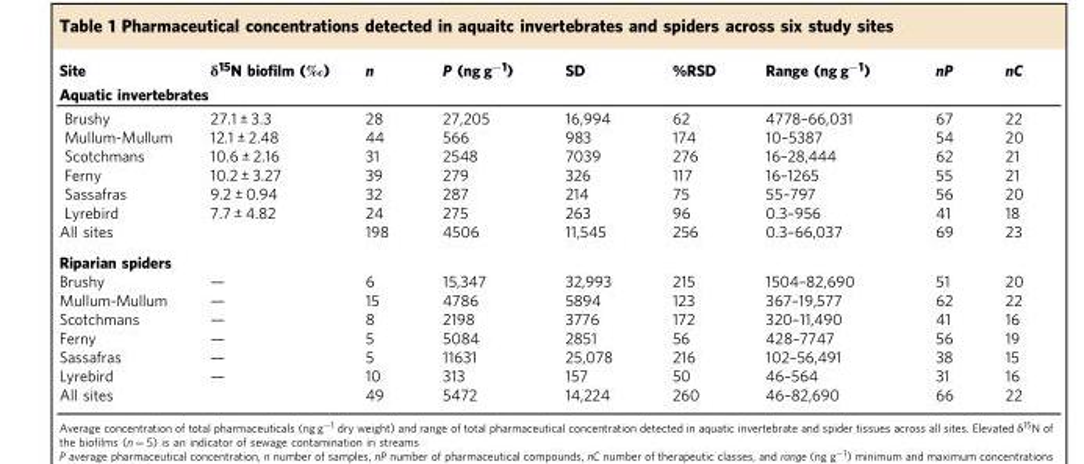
<table><thead><tr><td>Site</td><td>δ<sup>15</sup>N biofilm (‰)</td><td>n</td><td>P (ng g<sup>−1</sup>)</td><td>SD</td><td>%RSD</td><td>Range (ng g<sup>−1</sup>)</td><td>nP</td><td>nC</td></tr><tr><td colspan="9">Aquatic invertebrates</td></tr></thead><tbody><tr><td>Brushy</td><td>27.1 ± 3.3</td><td>28</td><td>27,205</td><td>16,994</td><td>62</td><td>4778–66,031</td><td>67</td><td>22</td></tr><tr><td>Mullum-Mullum</td><td>12.1 ± 2.48</td><td>44</td><td>566</td><td>983</td><td>174</td><td>10–5387</td><td>54</td><td>20</td></tr><tr><td>Scotchmans</td><td>10.6 ± 2.16</td><td>31</td><td>2548</td><td>7039</td><td>276</td><td>16–28,444</td><td>62</td><td>21</td></tr><tr><td>Ferny</td><td>10.2 ± 3.27</td><td>39</td><td>279</td><td>326</td><td>117</td><td>16–1265</td><td>55</td><td>21</td></tr><tr><td>Sassafras</td><td>9.2 ± 0.94</td><td>32</td><td>287</td><td>214</td><td>75</td><td>55–797</td><td>56</td><td>20</td></tr><tr><td>Lyrebird</td><td>7.7 ± 4.82</td><td>24</td><td>275</td><td>263</td><td>96</td><td>0.3–956</td><td>41</td><td>18</td></tr><tr><td>All sites</td><td></td><td>198</td><td>4506</td><td>11,545</td><td>256</td><td>0.3–66,037</td><td>69</td><td>23</td></tr><tr><td colspan="9">Riparian spiders</td></tr><tr><td>Brushy</td><td>—</td><td>6</td><td>15,347</td><td>32,993</td><td>215</td><td>1504–82,690</td><td>51</td><td>20</td></tr><tr><td>Mullum-Mullum</td><td>—</td><td>15</td><td>4786</td><td>5894</td><td>123</td><td>367–19,577</td><td>62</td><td>22</td></tr><tr><td>Scotchmans</td><td>—</td><td>8</td><td>2198</td><td>3776</td><td>172</td><td>320–11,490</td><td>41</td><td>16</td></tr><tr><td>Ferny</td><td>—</td><td>5</td><td>5084</td><td>2851</td><td>56</td><td>428–7747</td><td>56</td><td>19</td></tr><tr><td>Sassafras</td><td>—</td><td>5</td><td>11631</td><td>25,078</td><td>216</td><td>102–56,491</td><td>38</td><td>15</td></tr><tr><td>Lyrebird</td><td>—</td><td>10</td><td>313</td><td>157</td><td>50</td><td>46–564</td><td>31</td><td>16</td></tr><tr><td>All sites</td><td></td><td>49</td><td>5472</td><td>14,224</td><td>260</td><td>46–82,690</td><td>66</td><td>22</td></tr></tbody></table>